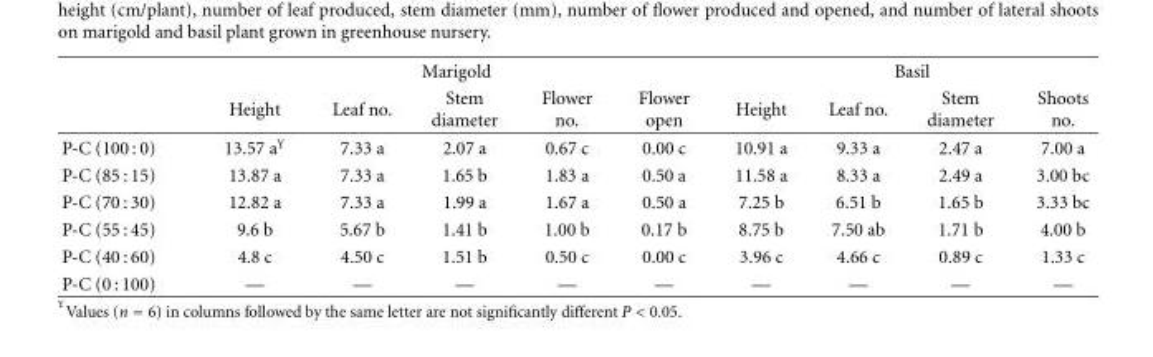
<table><thead><tr><td rowspan="2"></td><td colspan="5">Marigold</td><td colspan="4">Basil</td></tr><tr><td>Height</td><td>Leaf no.</td><td>Stem diameter</td><td>Flower no.</td><td>Flower open</td><td>Height</td><td>Leaf no.</td><td>Stem diameter</td><td>Shoots no.</td></tr></thead><tbody><tr><td>P-C (100 : 0)</td><td>13.57 a<sup>Y</sup></td><td>7.33 a</td><td>2.07 a</td><td>0.67 c</td><td>0.00 c</td><td>10.91 a</td><td>9.33 a</td><td>2.47 a</td><td>7.00 a</td></tr><tr><td>P-C (85 : 15)</td><td>13.87 a</td><td>7.33 a</td><td>1.65 b</td><td>1.83 a</td><td>0.50 a</td><td>11.58 a</td><td>8.33 a</td><td>2.49 a</td><td>3.00 bc</td></tr><tr><td>P-C (70 : 30)</td><td>12.82 a</td><td>7.33 a</td><td>1.99 a</td><td>1.67 a</td><td>0.50 a</td><td>7.25 b</td><td>6.51 b</td><td>1.65 b</td><td>3.33 bc</td></tr><tr><td>P-C (55 : 45)</td><td>9.6 b</td><td>5.67 b</td><td>1.41 b</td><td>1.00 b</td><td>0.17 b</td><td>8.75 b</td><td>7.50 ab</td><td>1.71 b</td><td>4.00 b</td></tr><tr><td>P-C (40 : 60)</td><td>4.8 c</td><td>4.50 c</td><td>1.51 b</td><td>0.50 c</td><td>0.00 c</td><td>3.96 c</td><td>4.66 c</td><td>0.89 c</td><td>1.33 c</td></tr><tr><td>P-C (0 : 100)</td><td>—</td><td>—</td><td>—</td><td>—</td><td>—</td><td>—</td><td>—</td><td>—</td><td>—</td></tr></tbody></table>